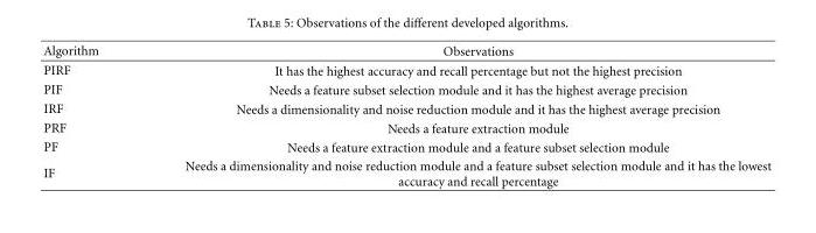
<table><thead><tr><td>Algorithm</td><td>Observations</td></tr></thead><tbody><tr><td>PIRF</td><td>It has the highest accuracy and recall percentage but not the highest precision</td></tr><tr><td>PIF</td><td>Needs a feature subset selection module and it has the highest average precision</td></tr><tr><td>IRF</td><td>Needs a dimensionality and noise reduction module and it has the highest average precision</td></tr><tr><td>PRF</td><td>Needs a feature extraction module</td></tr><tr><td>PF</td><td>Needs a feature extraction module and a feature subset selection module</td></tr><tr><td>IF</td><td>Needs a dimensionality and noise reduction module and a feature subset selection module and it has the lowest accuracy and recall percentage</td></tr></tbody></table>